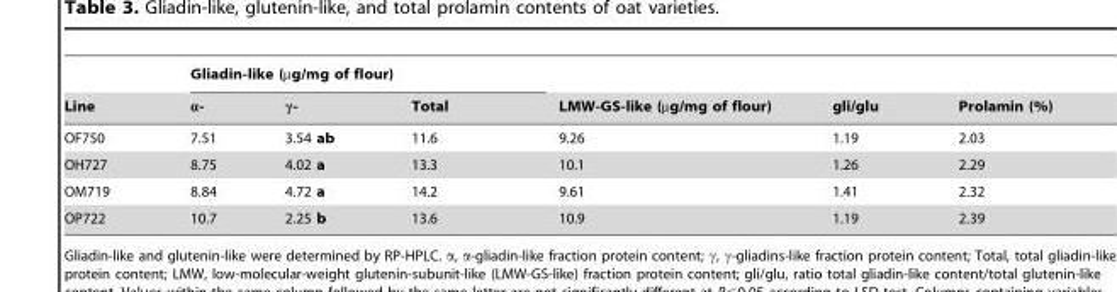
<table><thead><tr><td rowspan="2">Line</td><td colspan="3">Gliadin-like (µg/mg of flour)</td><td rowspan="2">LMW-GS-like (µg/mg of flour)</td><td rowspan="2">gli/glu</td><td rowspan="2">Prolamin (%)</td></tr><tr><td>α-</td><td>γ-</td><td>Total</td></tr></thead><tbody><tr><td>OF750</td><td>7.51</td><td>3.54 ab</td><td>11.6</td><td>9.26</td><td>1.19</td><td>2.03</td></tr><tr><td>OH727</td><td>8.75</td><td>4.02 a</td><td>13.3</td><td>10.1</td><td>1.26</td><td>2.29</td></tr><tr><td>OM719</td><td>8.84</td><td>4.72 a</td><td>14.2</td><td>9.61</td><td>1.41</td><td>2.32</td></tr><tr><td>OP722</td><td>10.7</td><td>2.25 b</td><td>13.6</td><td>10.9</td><td>1.19</td><td>2.39</td></tr></tbody></table>